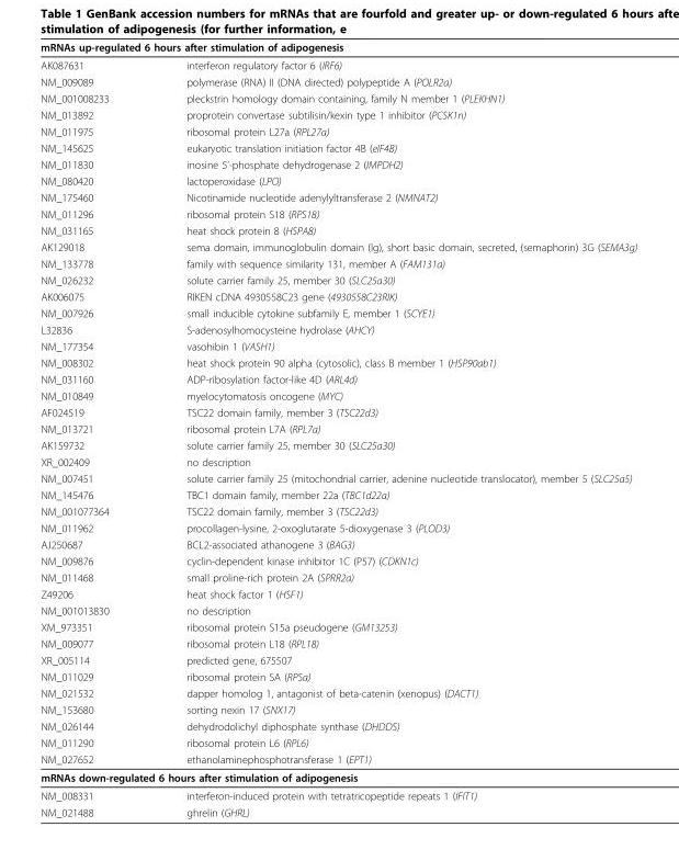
<table><thead><tr><td colspan="2">mRNAs up-regulated 6 hours after stimulation of adipogenesis</td></tr><tr><td>AK087631</td><td>interferon regulatory factor 6 (IRF6)</td></tr></thead><tbody><tr><td>NM_009089</td><td>polymerase (RNA) II (DNA directed) polypeptide A (POLR2a)</td></tr><tr><td>NM_001008233</td><td>pleckstrin homology domain containing, family N member 1 (PLEKHN1)</td></tr><tr><td>NM_013892</td><td>proprotein convertase subtilisin/kexin type 1 inhibitor (PCSK1n)</td></tr><tr><td>NM_011975</td><td>ribosomal protein L27a (RPL27a)</td></tr><tr><td>NM_145625</td><td>eukaryotic translation initiation factor 4B (eIF4B)</td></tr><tr><td>NM_011830</td><td>inosine 5’-phosphate dehydrogenase 2 (IMPDH2)</td></tr><tr><td>NM_080420</td><td>lactoperoxidase (LPO)</td></tr><tr><td>NM_175460</td><td>Nicotinamide nucleotide adenylyltransferase 2 (NMNAT2)</td></tr><tr><td>NM_011296</td><td>ribosomal protein S18 (RPS18)</td></tr><tr><td>NM_031165</td><td>heat shock protein 8 (HSPA8)</td></tr><tr><td>AK129018</td><td>sema domain, immunoglobulin domain (Ig), short basic domain, secreted, (semaphorin) 3G (SEMA3g)</td></tr><tr><td>NM_133778</td><td>family with sequence similarity 131, member A (FAM131a)</td></tr><tr><td>NM_026232</td><td>solute carrier family 25, member 30 (SLC25a30)</td></tr><tr><td>AK006075</td><td>RIKEN cDNA 4930558C23 gene (4930558C23RIK)</td></tr><tr><td>NM_007926</td><td>small inducible cytokine subfamily E, member 1 (SCYE1)</td></tr><tr><td>L32836</td><td>S-adenosylhomocysteine hydrolase (AHCY)</td></tr><tr><td>NM_177354</td><td>vasohibin 1 (VASH1)</td></tr><tr><td>NM_008302</td><td>heat shock protein 90 alpha (cytosolic), class B member 1 (HSP90ab1)</td></tr><tr><td>NM_031160</td><td>ADP-ribosylation factor-like 4D (ARL4d)</td></tr><tr><td>NM_010849</td><td>myelocytomatosis oncogene (MYC)</td></tr><tr><td>AF024519</td><td>TSC22 domain family, member 3 (TSC22d3)</td></tr><tr><td>NM_013721</td><td>ribosomal protein L7A (RPL7a)</td></tr><tr><td>AK159732</td><td>solute carrier family 25, member 30 (SLC25a30)</td></tr><tr><td>XR_002409</td><td>no description</td></tr><tr><td>NM_007451</td><td>solute carrier family 25 (mitochondrial carrier, adenine nucleotide translocator), member 5 (SLC25a5)</td></tr><tr><td>NM_145476</td><td>TBC1 domain family, member 22a (TBC1d22a)</td></tr><tr><td>NM_001077364</td><td>TSC22 domain family, member 3 (TSC22d3)</td></tr><tr><td>NM_011962</td><td>procollagen-lysine, 2-oxoglutarate 5-dioxygenase 3 (PLOD3)</td></tr><tr><td>AJ250687</td><td>BCL2-associated athanogene 3 (BAG3)</td></tr><tr><td>NM_009876</td><td>cyclin-dependent kinase inhibitor 1C (P57) (CDKN1c)</td></tr><tr><td>NM_011468</td><td>small proline-rich protein 2A (SPRR2a)</td></tr><tr><td>Z49206</td><td>heat shock factor 1 (HSF1)</td></tr><tr><td>NM_001013830</td><td>no description</td></tr><tr><td>XM_973351</td><td>ribosomal protein S15a pseudogene (GM13253)</td></tr><tr><td>NM_009077</td><td>ribosomal protein L18 (RPL18)</td></tr><tr><td>XR_005114</td><td>predicted gene, 675507</td></tr><tr><td>NM_011029</td><td>ribosomal protein SA (RPSa)</td></tr><tr><td>NM_021532</td><td>dapper homolog 1, antagonist of beta-catenin (xenopus) (DACT1)</td></tr><tr><td>NM_153680</td><td>sorting nexin 17 (SNX17)</td></tr><tr><td>NM_026144</td><td>dehydrodolichyl diphosphate synthase (DHDDS)</td></tr><tr><td>NM_011290</td><td>ribosomal protein L6 (RPL6)</td></tr><tr><td>NM_027652</td><td>ethanolaminephosphotransferase 1 (EPT1)</td></tr><tr><td colspan="2">mRNAs down-regulated 6 hours after stimulation of adipogenesis</td></tr><tr><td>NM_008331</td><td>interferon-induced protein with tetratricopeptide repeats 1 (IFIT1)</td></tr><tr><td>NM_021488</td><td>ghrelin (GHRL)</td></tr></tbody></table>